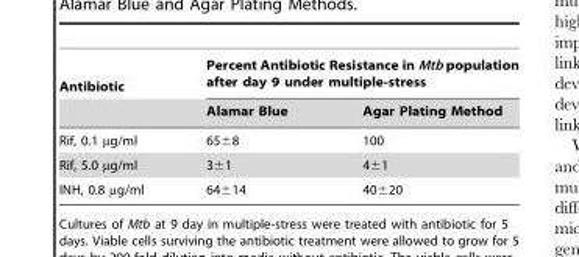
<table><thead><tr><td rowspan="2">Antibiotic</td><td colspan="2">Percent Antibiotic Resistance in Mtb population after day 9 under multiple-stress</td></tr><tr><td>Alamar Blue</td><td>Agar Plating Method</td></tr></thead><tbody><tr><td>Rif, 0.1 µg/ml</td><td>65±8</td><td>100</td></tr><tr><td>Rif, 5.0 µg/ml</td><td>3±1</td><td>4±1</td></tr><tr><td>INH, 0.8 µg/ml</td><td>64±14</td><td>40±20</td></tr></tbody></table>